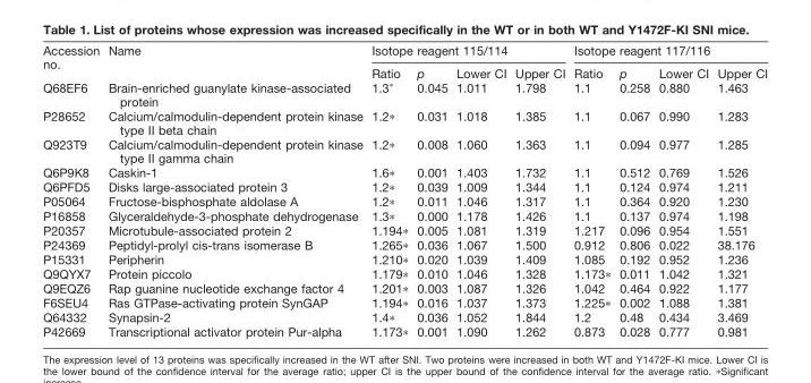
<table><thead><tr><td rowspan="2">Accession no.</td><td rowspan="2">Name</td><td colspan="4">Isotope reagent 115/114</td><td colspan="4">Isotope reagent 117/116</td></tr><tr><td>Ratio</td><td>p</td><td>Lower CI</td><td>Upper CI</td><td>Ratio</td><td>p</td><td>Lower CI</td><td>Upper CI</td></tr></thead><tbody><tr><td>Q68EF6</td><td>Brain-enriched guanylate kinase-associated protein</td><td>1.3*</td><td>0.045</td><td>1.011</td><td>1.798</td><td>1.1</td><td>0.258</td><td>0.880</td><td>1.463</td></tr><tr><td>P28652</td><td>Calcium/calmodulin-dependent protein kinase type II beta chain</td><td>1.2*</td><td>0.031</td><td>1.018</td><td>1.385</td><td>1.1</td><td>0.067</td><td>0.990</td><td>1.283</td></tr><tr><td>Q923T9</td><td>Calcium/calmodulin-dependent protein kinase type II gamma chain</td><td>1.2*</td><td>0.008</td><td>1.060</td><td>1.363</td><td>1.1</td><td>0.094</td><td>0.977</td><td>1.285</td></tr><tr><td>Q6P9K8</td><td>Caskin-1</td><td>1.6*</td><td>0.001</td><td>1.403</td><td>1.732</td><td>1.1</td><td>0.512</td><td>0.769</td><td>1.526</td></tr><tr><td>Q6PFD5</td><td>Disks large-associated protein 3</td><td>1.2*</td><td>0.039</td><td>1.009</td><td>1.344</td><td>1.1</td><td>0.124</td><td>0.974</td><td>1.211</td></tr><tr><td>P05064</td><td>Fructose-bisphosphate aldolase A</td><td>1.2*</td><td>0.011</td><td>1.046</td><td>1.317</td><td>1.1</td><td>0.364</td><td>0.920</td><td>1.230</td></tr><tr><td>P16858</td><td>Glyceraldehyde-3-phosphate dehydrogenase</td><td>1.3*</td><td>0.000</td><td>1.178</td><td>1.426</td><td>1.1</td><td>0.137</td><td>0.974</td><td>1.198</td></tr><tr><td>P20357</td><td>Microtubule-associated protein 2</td><td>1.194*</td><td>0.005</td><td>1.081</td><td>1.319</td><td>1.217</td><td>0.096</td><td>0.954</td><td>1.551</td></tr><tr><td>P24369</td><td>Peptidyl-prolyl cis-trans isomerase B</td><td>1.265*</td><td>0.036</td><td>1.067</td><td>1.500</td><td>0.912</td><td>0.806</td><td>0.022</td><td>38.176</td></tr><tr><td>P15331</td><td>Peripherin</td><td>1.210*</td><td>0.020</td><td>1.039</td><td>1.409</td><td>1.085</td><td>0.192</td><td>0.952</td><td>1.236</td></tr><tr><td>Q9QYX7</td><td>Protein piccolo</td><td>1.179*</td><td>0.010</td><td>1.046</td><td>1.328</td><td>1.173*</td><td>0.011</td><td>1.042</td><td>1.321</td></tr><tr><td>Q9EQZ6</td><td>Rap guanine nucleotide exchange factor 4</td><td>1.201*</td><td>0.003</td><td>1.087</td><td>1.326</td><td>1.042</td><td>0.464</td><td>0.922</td><td>1.177</td></tr><tr><td>F6SEU4</td><td>Ras GTPase-activating protein SynGAP</td><td>1.194*</td><td>0.016</td><td>1.037</td><td>1.373</td><td>1.225*</td><td>0.002</td><td>1.088</td><td>1.381</td></tr><tr><td>Q64332</td><td>Synapsin-2</td><td>1.4*</td><td>0.036</td><td>1.052</td><td>1.844</td><td>1.2</td><td>0.48</td><td>0.434</td><td>3.469</td></tr><tr><td>P42669</td><td>Transcriptional activator protein Pur-alpha</td><td>1.173*</td><td>0.001</td><td>1.090</td><td>1.262</td><td>0.873</td><td>0.028</td><td>0.777</td><td>0.981</td></tr></tbody></table>